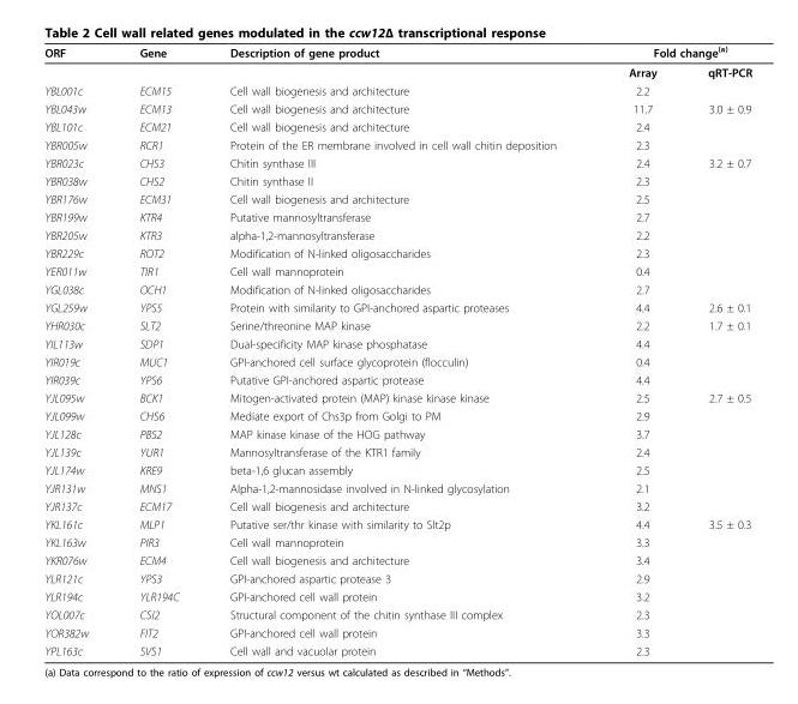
<table><thead><tr><td rowspan="2">ORF</td><td rowspan="2">Gene</td><td rowspan="2">Description of gene product</td><td colspan="2">Fold change<sup>(a)</sup></td></tr><tr><td>Array</td><td>qRT-PCR</td></tr></thead><tbody><tr><td>YBL001c</td><td>ECM15</td><td>Cell wall biogenesis and architecture</td><td>2.2</td><td></td></tr><tr><td>YBL043w</td><td>ECM13</td><td>Cell wall biogenesis and architecture</td><td>11.7</td><td>3.0 ± 0.9</td></tr><tr><td>YBL101c</td><td>ECM21</td><td>Cell wall biogenesis and architecture</td><td>2.4</td><td></td></tr><tr><td>YBR005w</td><td>RCR1</td><td>Protein of the ER membrane involved in cell wall chitin deposition</td><td>2.3</td><td></td></tr><tr><td>YBR023c</td><td>CHS3</td><td>Chitin synthase III</td><td>2.4</td><td>3.2 ± 0.7</td></tr><tr><td>YBR038w</td><td>CHS2</td><td>Chitin synthase II</td><td>2.3</td><td></td></tr><tr><td>YBR176w</td><td>ECM31</td><td>Cell wall biogenesis and architecture</td><td>2.5</td><td></td></tr><tr><td>YBR199w</td><td>KTR4</td><td>Putative mannosyltransferase</td><td>2.7</td><td></td></tr><tr><td>YBR205w</td><td>KTR3</td><td>alpha-1,2-mannosyltransferase</td><td>2.2</td><td></td></tr><tr><td>YBR229c</td><td>ROT2</td><td>Modification of N-linked oligosaccharides</td><td>2.3</td><td></td></tr><tr><td>YER011w</td><td>TIR1</td><td>Cell wall mannoprotein</td><td>0.4</td><td></td></tr><tr><td>YGL038c</td><td>OCH1</td><td>Modification of N-linked oligosaccharides</td><td>2.7</td><td></td></tr><tr><td>YGL259w</td><td>YPS5</td><td>Protein with similarity to GPI-anchored aspartic proteases</td><td>4.4</td><td>2.6 ± 0.1</td></tr><tr><td>YHR030c</td><td>SLT2</td><td>Serine/threonine MAP kinase</td><td>2.2</td><td>1.7 ± 0.1</td></tr><tr><td>YIL113w</td><td>SDP1</td><td>Dual-specificity MAP kinase phosphatase</td><td>4.4</td><td></td></tr><tr><td>YIR019c</td><td>MUC1</td><td>GPI-anchored cell surface glycoprotein (flocculin)</td><td>0.4</td><td></td></tr><tr><td>YIR039c</td><td>YPS6</td><td>Putative GPI-anchored aspartic protease</td><td>4.4</td><td></td></tr><tr><td>YJL095w</td><td>BCK1</td><td>Mitogen-activated protein (MAP) kinase kinase kinase</td><td>2.5</td><td>2.7 ± 0.5</td></tr><tr><td>YJL099w</td><td>CHS6</td><td>Mediate export of Chs3p from Golgi to PM</td><td>2.9</td><td></td></tr><tr><td>YJL128c</td><td>PBS2</td><td>MAP kinase kinase of the HOG pathway</td><td>3.7</td><td></td></tr><tr><td>YJL139c</td><td>YUR1</td><td>Mannosyltransferase of the KTR1 family</td><td>2.4</td><td></td></tr><tr><td>YJL174w</td><td>KRE9</td><td>beta-1,6 glucan assembly</td><td>2.5</td><td></td></tr><tr><td>YJR131w</td><td>MNS1</td><td>Alpha-1,2-mannosidase involved in N-linked glycosylation</td><td>2.1</td><td></td></tr><tr><td>YJR137c</td><td>ECM17</td><td>Cell wall biogenesis and architecture</td><td>3.2</td><td></td></tr><tr><td>YKL161c</td><td>MLP1</td><td>Putative ser/thr kinase with similarity to Slt2p</td><td>4.4</td><td>3.5 ± 0.3</td></tr><tr><td>YKL163w</td><td>PIR3</td><td>Cell wall mannoprotein</td><td>3.3</td><td></td></tr><tr><td>YKR076w</td><td>ECM4</td><td>Cell wall biogenesis and architecture</td><td>3.4</td><td></td></tr><tr><td>YLR121c</td><td>YPS3</td><td>GPI-anchored aspartic protease 3</td><td>2.9</td><td></td></tr><tr><td>YLR194c</td><td>YLR194C</td><td>GPI-anchored cell wall protein</td><td>3.2</td><td></td></tr><tr><td>YOL007c</td><td>CSI2</td><td>Structural component of the chitin synthase III complex</td><td>2.3</td><td></td></tr><tr><td>YOR382w</td><td>FIT2</td><td>GPI-anchored cell wall protein</td><td>3.3</td><td></td></tr><tr><td>YPL163c</td><td>SVS1</td><td>Cell wall and vacuolar protein</td><td>2.3</td><td></td></tr></tbody></table>